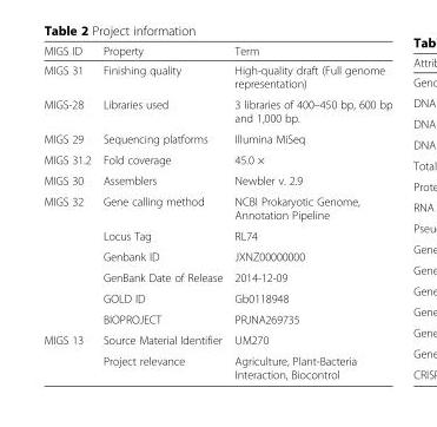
<table><thead><tr><td>MIGS ID</td><td>Property</td><td>Term</td></tr></thead><tbody><tr><td>MIGS 31</td><td>Finishing quality</td><td>High-quality draft (Full genome representation)</td></tr><tr><td>MIGS-28</td><td>Libraries used</td><td>3 libraries of 400–450 bp, 600 bp and 1,000 bp.</td></tr><tr><td>MIGS 29</td><td>Sequencing platforms</td><td>Illumina MiSeq</td></tr><tr><td>MIGS 31.2</td><td>Fold coverage</td><td>45.0 ×</td></tr><tr><td>MIGS 30</td><td>Assemblers</td><td>Newbler v. 2.9</td></tr><tr><td rowspan="6">MIGS 32</td><td>Gene calling method</td><td>NCBI Prokaryotic Genome, Annotation Pipeline</td></tr><tr><td>Locus Tag</td><td>RL74</td></tr><tr><td>Genbank ID</td><td>JXNZ00000000</td></tr><tr><td>GenBank Date of Release</td><td>2014-12-09</td></tr><tr><td>GOLD ID</td><td>Gb0118948</td></tr><tr><td>BIOPROJECT</td><td>PRJNA269735</td></tr><tr><td rowspan="2">MIGS 13</td><td>Source Material Identifier</td><td>UM270</td></tr><tr><td>Project relevance</td><td>Agriculture, Plant-Bacteria Interaction, Biocontrol</td></tr></tbody></table>